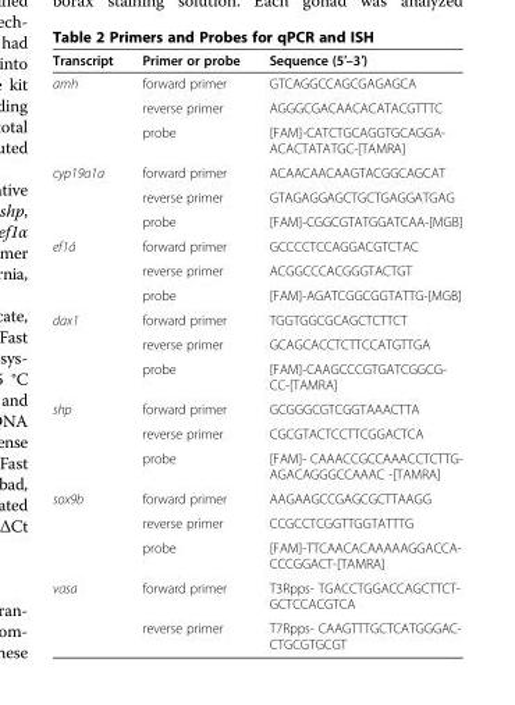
<table><thead><tr><td>Transcript</td><td>Primer or probe</td><td>Sequence (5′–3′)</td></tr></thead><tbody><tr><td rowspan="3">amh</td><td>forward primer</td><td>GTCAGGCCAGCGAGAGCA</td></tr><tr><td>reverse primer</td><td>AGGGCGACAACACATACGTTTC</td></tr><tr><td>probe</td><td>[FAM]-CATCTGCAGGTGCAGGA- ACACTATATGC-[TAMRA]</td></tr><tr><td rowspan="3">cyp19a1a</td><td>forward primer</td><td>ACAACAACAAGTACGGCAGCAT</td></tr><tr><td>reverse primer</td><td>GTAGAGGAGCTGCTGAGGATGAG</td></tr><tr><td>probe</td><td>[FAM]-CGGCGTATGGATCAA-[MGB]</td></tr><tr><td rowspan="3">ef1á</td><td>forward primer</td><td>GCCCCTCCAGGACGTCTAC</td></tr><tr><td>reverse primer</td><td>ACGGCCCACGGGTACTGT</td></tr><tr><td>probe</td><td>[FAM]-AGATCGGCGGTATTG-[MGB]</td></tr><tr><td rowspan="3">dax1</td><td>forward primer</td><td>TGGTGGCGCAGCTCTTCT</td></tr><tr><td>reverse primer</td><td>GCAGCACCTCTTCCATGTTGA</td></tr><tr><td>probe</td><td>[FAM]-CAAGCCCGTGATCGGCG- CC-[TAMRA]</td></tr><tr><td rowspan="3">shp</td><td>forward primer</td><td>GCGGGCGTCGGTAAACTTA</td></tr><tr><td>reverse primer</td><td>CGCGTACTCCTTCGGACTCA</td></tr><tr><td>probe</td><td>[FAM]- CAAACCGCCAAACCTCTTG- AGACAGGGCCAAAC -[TAMRA]</td></tr><tr><td rowspan="3">sox9b</td><td>forward primer</td><td>AAGAAGCCGAGCGCTTAAGG</td></tr><tr><td>reverse primer</td><td>CCGCCTCGGTTGGTATTTG</td></tr><tr><td>probe</td><td>[FAM]-TTCAACACAAAAAGGACCA- CCCGGACT-[TAMRA]</td></tr><tr><td rowspan="2">vasa</td><td>forward primer</td><td>T3Rpps- TGACCTGGACCAGCTTCT- GCTCCACGTCA</td></tr><tr><td>reverse primer</td><td>T7Rpps- CAAGTTTGCTCATGGGAC- CTGCGTGCGT</td></tr></tbody></table>